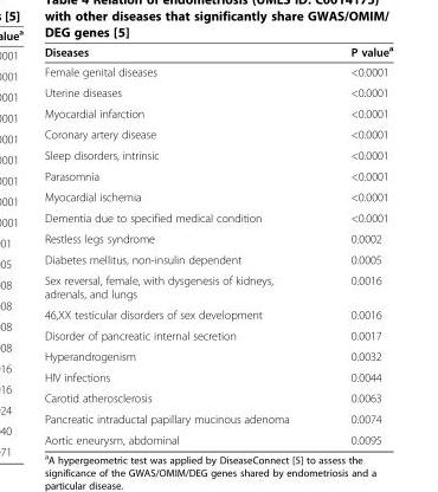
<table><thead><tr><td>Diseases</td><td>P value<sup>a</sup></td></tr></thead><tbody><tr><td>Female genital diseases</td><td>&lt;0.0001</td></tr><tr><td>Uterine diseases</td><td>&lt;0.0001</td></tr><tr><td>Myocardial infarction</td><td>&lt;0.0001</td></tr><tr><td>Coronary artery disease</td><td>&lt;0.0001</td></tr><tr><td>Sleep disorders, intrinsic</td><td>&lt;0.0001</td></tr><tr><td>Parasomnia</td><td>&lt;0.0001</td></tr><tr><td>Myocardial ischemia</td><td>&lt;0.0001</td></tr><tr><td>Dementia due to specified medical condition</td><td>&lt;0.0001</td></tr><tr><td>Restless legs syndrome</td><td>0.0002</td></tr><tr><td>Diabetes mellitus, non-insulin dependent</td><td>0.0005</td></tr><tr><td>Sex reversal, female, with dysgenesis of kidneys, adrenals, and lungs</td><td>0.0016</td></tr><tr><td>46,XX testicular disorders of sex development</td><td>0.0016</td></tr><tr><td>Disorder of pancreatic internal secretion</td><td>0.0017</td></tr><tr><td>Hyperandrogenism</td><td>0.0032</td></tr><tr><td>HIV infections</td><td>0.0044</td></tr><tr><td>Carotid atherosclerosis</td><td>0.0063</td></tr><tr><td>Pancreatic intraductal papillary mucinous adenoma</td><td>0.0074</td></tr><tr><td>Aortic eneurysm, abdominal</td><td>0.0095</td></tr></tbody></table>